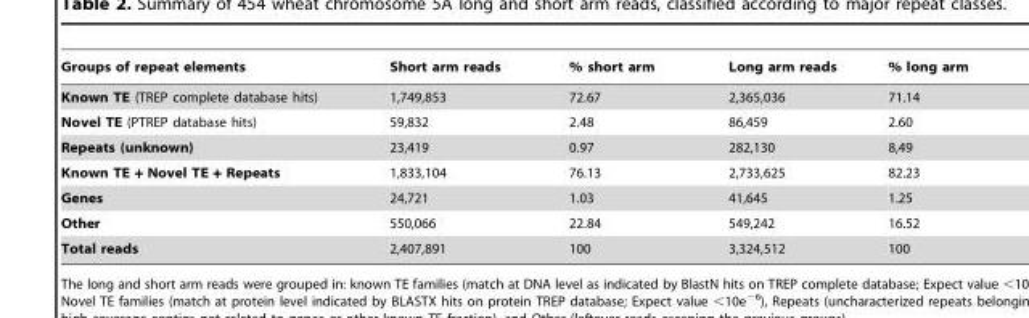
<table><thead><tr><td>Groups of repeat elements</td><td>Short arm reads</td><td>% short arm</td><td>Long arm reads</td><td>% long arm</td></tr></thead><tbody><tr><td>Known TE (TREP complete database hits)</td><td>1,749,853</td><td>72.67</td><td>2,365,036</td><td>71.14</td></tr><tr><td>Novel TE (PTREP database hits)</td><td>59,832</td><td>2.48</td><td>86,459</td><td>2.60</td></tr><tr><td>Repeats (unknown)</td><td>23,419</td><td>0.97</td><td>282,130</td><td>8,49</td></tr><tr><td>Known TE + Novel TE + Repeats</td><td>1,833,104</td><td>76.13</td><td>2,733,625</td><td>82.23</td></tr><tr><td>Genes</td><td>24,721</td><td>1.03</td><td>41,645</td><td>1.25</td></tr><tr><td>Other</td><td>550,066</td><td>22.84</td><td>549,242</td><td>16.52</td></tr><tr><td>Total reads</td><td>2,407,891</td><td>100</td><td>3,324,512</td><td>100</td></tr></tbody></table>